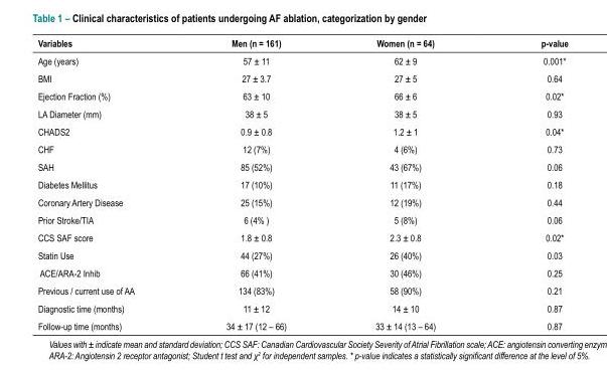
<table><thead><tr><td>Variables</td><td>Men (n = 161)</td><td>Women (n = 64)</td><td>p-value</td></tr></thead><tbody><tr><td>Age (years)</td><td>57 ± 11</td><td>62 ± 9</td><td>0.001*</td></tr><tr><td>BMI</td><td>27 ± 3.7</td><td>27 ± 5</td><td>0.64</td></tr><tr><td>Ejection Fraction (%)</td><td>63 ± 10</td><td>66 ± 6</td><td>0.02*</td></tr><tr><td>LA Diameter (mm)</td><td>38 ± 5</td><td>38 ± 5</td><td>0.93</td></tr><tr><td>CHADS2</td><td>0.9 ± 0.8</td><td>1.2 ± 1</td><td>0.04*</td></tr><tr><td>CHF</td><td>12 (7%)</td><td>4 (6%)</td><td>0.73</td></tr><tr><td>SAH</td><td>85 (52%)</td><td>43 (67%)</td><td>0.06</td></tr><tr><td>Diabetes Mellitus</td><td>17 (10%)</td><td>11 (17%)</td><td>0.18</td></tr><tr><td>Coronary Artery Disease</td><td>25 (15%)</td><td>12 (19%)</td><td>0.44</td></tr><tr><td>Prior Stroke/TIA</td><td>6 (4% )</td><td>5 (8%)</td><td>0.06</td></tr><tr><td>CCS SAF score</td><td>1.8 ± 0.8</td><td>2.3 ± 0.8</td><td>0.02*</td></tr><tr><td>Statin Use</td><td>44 (27%)</td><td>26 (40%)</td><td>0.03</td></tr><tr><td>ACE/ARA-2 Inhib</td><td>66 (41%)</td><td>30 (46%)</td><td>0.25</td></tr><tr><td>Previous / current use of AA</td><td>134 (83%)</td><td>58 (90%)</td><td>0.21</td></tr><tr><td>Diagnostic time (months)</td><td>11 ± 12</td><td>14 ± 10</td><td>0.87</td></tr><tr><td>Follow-up time (months)</td><td>34 ± 17 (12 – 66)</td><td>33 ± 14 (13 – 64)</td><td>0.87</td></tr></tbody></table>